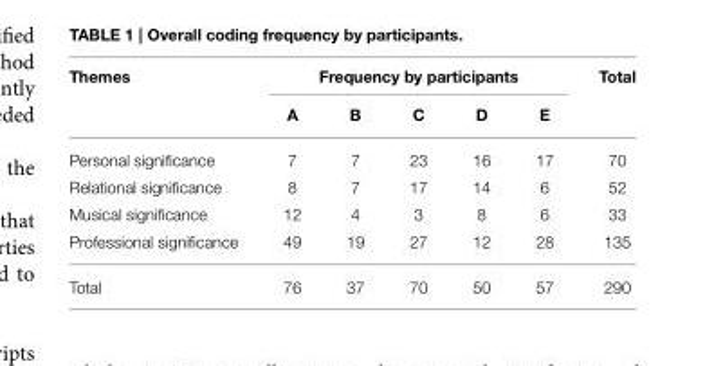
<table><thead><tr><td rowspan="2">Themes</td><td colspan="5">Frequency by participants</td><td rowspan="2">Total</td></tr><tr><td>A</td><td>B</td><td>C</td><td>D</td><td>E</td></tr></thead><tbody><tr><td>Personal significance</td><td>7</td><td>7</td><td>23</td><td>16</td><td>17</td><td>70</td></tr><tr><td>Relational significance</td><td>8</td><td>7</td><td>17</td><td>14</td><td>6</td><td>52</td></tr><tr><td>Musical significance</td><td>12</td><td>4</td><td>3</td><td>8</td><td>6</td><td>33</td></tr><tr><td>Professional significance</td><td>49</td><td>19</td><td>27</td><td>12</td><td>28</td><td>135</td></tr><tr><td>Total</td><td>76</td><td>37</td><td>70</td><td>50</td><td>57</td><td>290</td></tr></tbody></table>